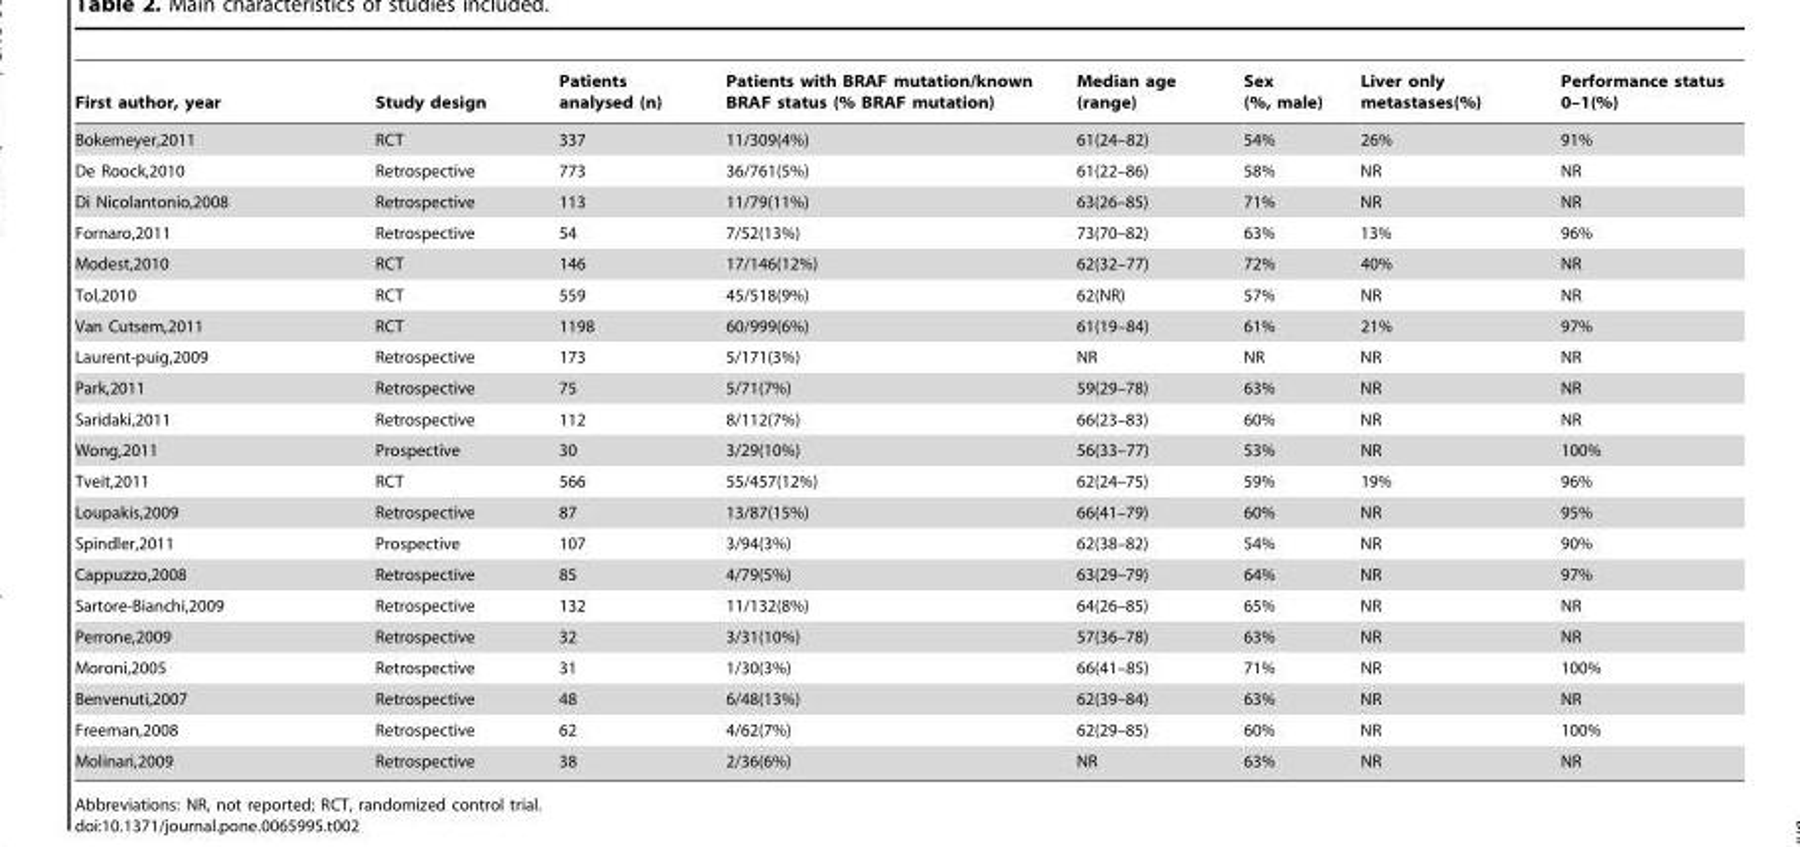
<table><thead><tr><td>First author, year</td><td>Study design</td><td>Patients analysed (n)</td><td>Patients with BRAF mutation/known BRAF status (% BRAF mutation)</td><td>Median age (range)</td><td>Sex (%, male)</td><td>Liver only metastases(%)</td><td>Performance status 0–1(%)</td></tr></thead><tbody><tr><td>Bokemeyer,2011</td><td>RCT</td><td>337</td><td>11/309(4%)</td><td>61(24–82)</td><td>54%</td><td>26%</td><td>91%</td></tr><tr><td>De Roock,2010</td><td>Retrospective</td><td>773</td><td>36/761(5%)</td><td>61(22–86)</td><td>58%</td><td>NR</td><td>NR</td></tr><tr><td>Di Nicolantonio,2008</td><td>Retrospective</td><td>113</td><td>11/79(11%)</td><td>63(26–85)</td><td>71%</td><td>NR</td><td>NR</td></tr><tr><td>Fornaro,2011</td><td>Retrospective</td><td>54</td><td>7/52(13%)</td><td>73(70–82)</td><td>63%</td><td>13%</td><td>96%</td></tr><tr><td>Modest,2010</td><td>RCT</td><td>146</td><td>17/146(12%)</td><td>62(32–77)</td><td>72%</td><td>40%</td><td>NR</td></tr><tr><td>Tol,2010</td><td>RCT</td><td>559</td><td>45/518(9%)</td><td>62(NR)</td><td>57%</td><td>NR</td><td>NR</td></tr><tr><td>Van Cutsem,2011</td><td>RCT</td><td>1198</td><td>60/999(6%)</td><td>61(19–84)</td><td>61%</td><td>21%</td><td>97%</td></tr><tr><td>Laurent-puig,2009</td><td>Retrospective</td><td>173</td><td>5/171(3%)</td><td>NR</td><td>NR</td><td>NR</td><td>NR</td></tr><tr><td>Park,2011</td><td>Retrospective</td><td>75</td><td>5/71(7%)</td><td>59(29–78)</td><td>63%</td><td>NR</td><td>NR</td></tr><tr><td>Saridaki,2011</td><td>Retrospective</td><td>112</td><td>8/112(7%)</td><td>66(23–83)</td><td>60%</td><td>NR</td><td>NR</td></tr><tr><td>Wong,2011</td><td>Prospective</td><td>30</td><td>3/29(10%)</td><td>56(33–77)</td><td>53%</td><td>NR</td><td>100%</td></tr><tr><td>Tveit,2011</td><td>RCT</td><td>566</td><td>55/457(12%)</td><td>62(24–75)</td><td>59%</td><td>19%</td><td>96%</td></tr><tr><td>Loupakis,2009</td><td>Retrospective</td><td>87</td><td>13/87(15%)</td><td>66(41–79)</td><td>60%</td><td>NR</td><td>95%</td></tr><tr><td>Spindler,2011</td><td>Prospective</td><td>107</td><td>3/94(3%)</td><td>62(38–82)</td><td>54%</td><td>NR</td><td>90%</td></tr><tr><td>Cappuzzo,2008</td><td>Retrospective</td><td>85</td><td>4/79(5%)</td><td>63(29–79)</td><td>64%</td><td>NR</td><td>97%</td></tr><tr><td>Sartore-Bianchi,2009</td><td>Retrospective</td><td>132</td><td>11/132(8%)</td><td>64(26–85)</td><td>65%</td><td>NR</td><td>NR</td></tr><tr><td>Perrone,2009</td><td>Retrospective</td><td>32</td><td>3/31(10%)</td><td>57(36–78)</td><td>63%</td><td>NR</td><td>NR</td></tr><tr><td>Moroni,2005</td><td>Retrospective</td><td>31</td><td>1/30(3%)</td><td>66(41–85)</td><td>71%</td><td>NR</td><td>100%</td></tr><tr><td>Benvenuti,2007</td><td>Retrospective</td><td>48</td><td>6/48(13%)</td><td>62(39–84)</td><td>63%</td><td>NR</td><td>NR</td></tr><tr><td>Freeman,2008</td><td>Retrospective</td><td>62</td><td>4/62(7%)</td><td>62(29–85)</td><td>60%</td><td>NR</td><td>100%</td></tr><tr><td>Molinari,2009</td><td>Retrospective</td><td>38</td><td>2/36(6%)</td><td>NR</td><td>63%</td><td>NR</td><td>NR</td></tr></tbody></table>